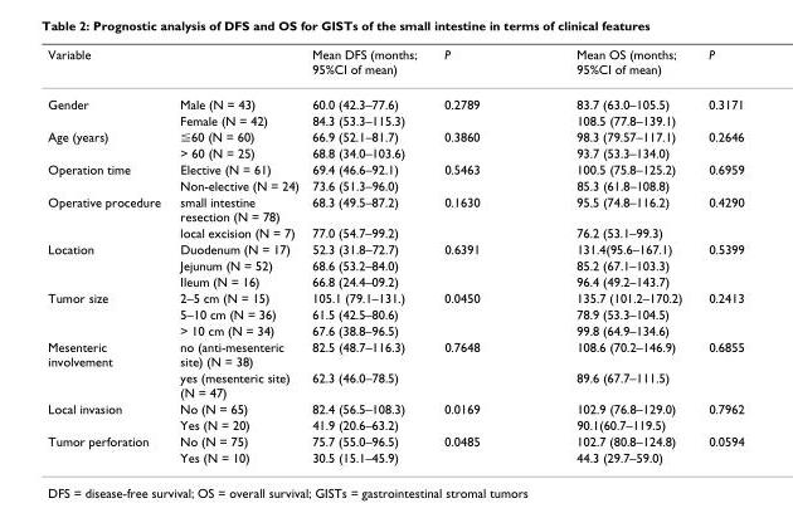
<table><thead><tr><td>Variable</td><td></td><td>Mean DFS (months; 95%CI of mean)</td><td>P</td><td>Mean OS (months; 95%CI of mean)</td><td>P</td></tr></thead><tbody><tr><td rowspan="2">Gender</td><td>Male (N = 43)</td><td>60.0 (42.3–77.6)</td><td>0.2789</td><td>83.7 (63.0–105.5)</td><td>0.3171</td></tr><tr><td>Female (N = 42)</td><td>84.3 (53.3–115.3)</td><td></td><td>108.5 (77.8–139.1)</td><td></td></tr><tr><td rowspan="2">Age (years)</td><td>≦60 (N = 60)</td><td>66.9 (52.1–81.7)</td><td>0.3860</td><td>98.3 (79.57–117.1)</td><td>0.2646</td></tr><tr><td>&gt; 60 (N = 25)</td><td>68.8 (34.0–103.6)</td><td></td><td>93.7 (53.3–134.0)</td><td></td></tr><tr><td rowspan="2">Operation time</td><td>Elective (N = 61)</td><td>69.4 (46.6–92.1)</td><td>0.5463</td><td>100.5 (75.8–125.2)</td><td>0.6959</td></tr><tr><td>Non-elective (N = 24)</td><td>73.6 (51.3–96.0)</td><td></td><td>85.3 (61.8–108.8)</td><td></td></tr><tr><td rowspan="2">Operative procedure</td><td>small intestine resection (N = 78)</td><td>68.3 (49.5–87.2)</td><td>0.1630</td><td>95.5 (74.8–116.2)</td><td>0.4290</td></tr><tr><td>local excision (N = 7)</td><td>77.0 (54.7–99.2)</td><td></td><td>76.2 (53.1–99.3)</td><td></td></tr><tr><td rowspan="3">Location</td><td>Duodenum (N = 17)</td><td>52.3 (31.8–72.7)</td><td>0.6391</td><td>131.4(95.6–167.1)</td><td>0.5399</td></tr><tr><td>Jejunum (N = 52)</td><td>68.6 (53.2–84.0)</td><td></td><td>85.2 (67.1–103.3)</td><td></td></tr><tr><td>Ileum (N = 16)</td><td>66.8 (24.4–09.2)</td><td></td><td>96.4 (49.2–143.7)</td><td></td></tr><tr><td rowspan="3">Tumor size</td><td>2–5 cm (N = 15)</td><td>105.1 (79.1–131.)</td><td>0.0450</td><td>135.7 (101.2–170.2)</td><td>0.2413</td></tr><tr><td>5–10 cm (N = 36)</td><td>61.5 (42.5–80.6)</td><td></td><td>78.9 (53.3–104.5)</td><td></td></tr><tr><td>&gt; 10 cm (N = 34)</td><td>67.6 (38.8–96.5)</td><td></td><td>99.8 (64.9–134.6)</td><td></td></tr><tr><td rowspan="2">Mesenteric involvement</td><td>no (anti-mesenteric site) (N = 38)</td><td>82.5 (48.7–116.3)</td><td>0.7648</td><td>108.6 (70.2–146.9)</td><td>0.6855</td></tr><tr><td>yes (mesenteric site) (N = 47)</td><td>62.3 (46.0–78.5)</td><td></td><td>89.6 (67.7–111.5)</td><td></td></tr><tr><td rowspan="2">Local invasion</td><td>No (N = 65)</td><td>82.4 (56.5–108.3)</td><td>0.0169</td><td>102.9 (76.8–129.0)</td><td>0.7962</td></tr><tr><td>Yes (N = 20)</td><td>41.9 (20.6–63.2)</td><td></td><td>90.1(60.7–119.5)</td><td></td></tr><tr><td rowspan="2">Tumor perforation</td><td>No (N = 75)</td><td>75.7 (55.0–96.5)</td><td>0.0485</td><td>102.7 (80.8–124.8)</td><td>0.0594</td></tr><tr><td>Yes (N = 10)</td><td>30.5 (15.1–45.9)</td><td></td><td>44.3 (29.7–59.0)</td><td></td></tr></tbody></table>